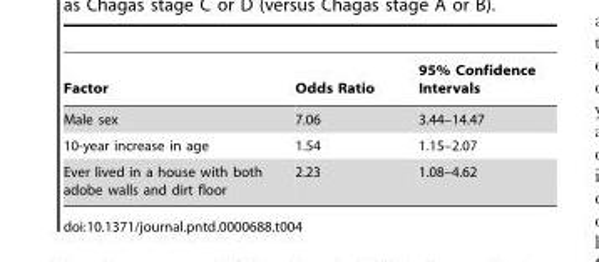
<table><thead><tr><td>Factor</td><td>Odds Ratio</td><td>95% Confidence Intervals</td></tr></thead><tbody><tr><td>Male sex</td><td>7.06</td><td>3.44–14.47</td></tr><tr><td>10-year increase in age</td><td>1.54</td><td>1.15–2.07</td></tr><tr><td>Ever lived in a house with both adobe walls and dirt floor</td><td>2.23</td><td>1.08–4.62</td></tr></tbody></table>